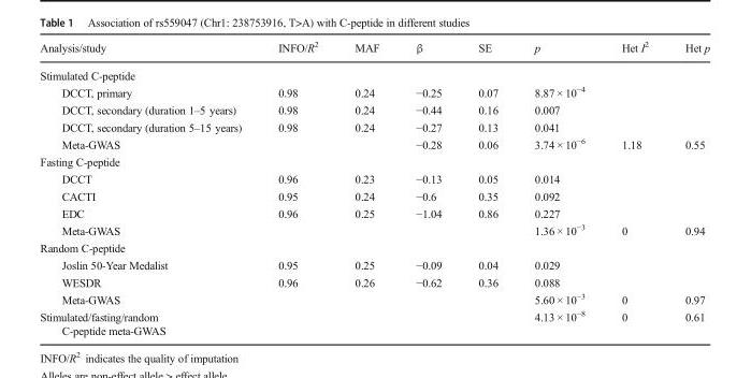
<table><thead><tr><td>Analysis/study</td><td>INFO/R<sup>2</sup></td><td>MAF</td><td>β</td><td>SE</td><td>p</td><td>Het I<sup>2</sup></td><td>Het p</td></tr></thead><tbody><tr><td colspan="8">Stimulated C-peptide</td></tr><tr><td>DCCT, primary</td><td>0.98</td><td>0.24</td><td>−0.25</td><td>0.07</td><td>8.87 × 10<sup>−4</sup></td><td></td><td></td></tr><tr><td>DCCT, secondary (duration 1–5 years)</td><td>0.98</td><td>0.24</td><td>−0.44</td><td>0.16</td><td>0.007</td><td></td><td></td></tr><tr><td>DCCT, secondary (duration 5–15 years)</td><td>0.98</td><td>0.24</td><td>−0.27</td><td>0.13</td><td>0.041</td><td></td><td></td></tr><tr><td>Meta-GWAS</td><td></td><td></td><td>−0.28</td><td>0.06</td><td>3.74 × 10<sup>−6</sup></td><td>1.18</td><td>0.55</td></tr><tr><td colspan="8">Fasting C-peptide</td></tr><tr><td>DCCT</td><td>0.96</td><td>0.23</td><td>−0.13</td><td>0.05</td><td>0.014</td><td></td><td></td></tr><tr><td>CACTI</td><td>0.95</td><td>0.24</td><td>−0.6</td><td>0.35</td><td>0.092</td><td></td><td></td></tr><tr><td>EDC</td><td>0.96</td><td>0.25</td><td>−1.04</td><td>0.86</td><td>0.227</td><td></td><td></td></tr><tr><td>Meta-GWAS</td><td></td><td></td><td></td><td></td><td>1.36 × 10<sup>−3</sup></td><td>0</td><td>0.94</td></tr><tr><td colspan="8">Random C-peptide</td></tr><tr><td>Joslin 50-Year Medalist</td><td>0.95</td><td>0.25</td><td>−0.09</td><td>0.04</td><td>0.029</td><td></td><td></td></tr><tr><td>WESDR</td><td>0.96</td><td>0.26</td><td>−0.62</td><td>0.36</td><td>0.088</td><td></td><td></td></tr><tr><td>Meta-GWAS</td><td></td><td></td><td></td><td></td><td>5.60 × 10<sup>−3</sup></td><td>0</td><td>0.97</td></tr><tr><td>Stimulated/fasting/random C-peptide meta-GWAS</td><td></td><td></td><td></td><td></td><td>4.13 × 10<sup>−8</sup></td><td>0</td><td>0.61</td></tr></tbody></table>